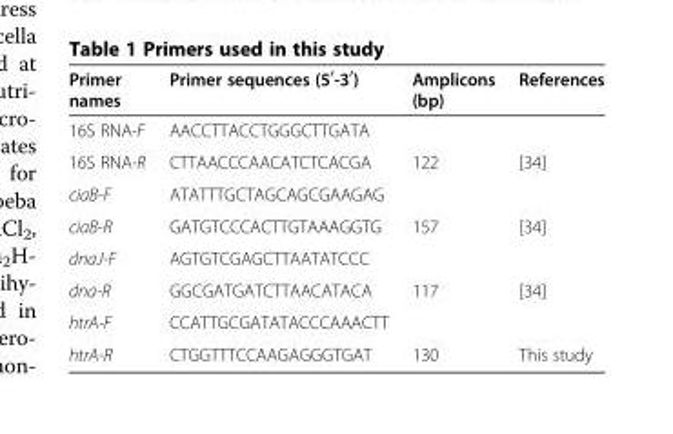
<table><thead><tr><td>Primer names</td><td>Primer sequences (5<sup>′</sup>-3<sup>′</sup>)</td><td>Amplicons (bp)</td><td>References</td></tr></thead><tbody><tr><td>16S RNA-F</td><td>AACCTTACCTGGGCTTGATA</td><td></td><td></td></tr><tr><td>16S RNA-R</td><td>CTTAACCCAACATCTCACGA</td><td>122</td><td>[34]</td></tr><tr><td>ciaB-F</td><td>ATATTTGCTAGCAGCGAAGAG</td><td></td><td></td></tr><tr><td>ciaB-R</td><td>GATGTCCCACTTGTAAAGGTG</td><td>157</td><td>[34]</td></tr><tr><td>dnaJ-F</td><td>AGTGTCGAGCTTAATATCCC</td><td></td><td></td></tr><tr><td>dna-R</td><td>GGCGATGATCTTAACATACA</td><td>117</td><td>[34]</td></tr><tr><td>htrA-F</td><td>CCATTGCGATATACCCAAACTT</td><td></td><td></td></tr><tr><td>htrA-R</td><td>CTGGTTTCCAAGAGGGTGAT</td><td>130</td><td>This study</td></tr></tbody></table>